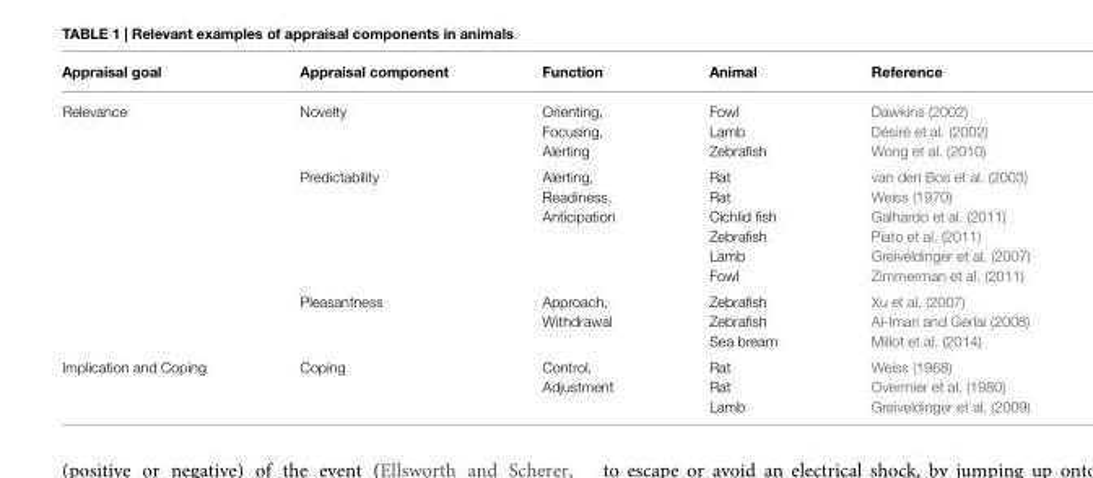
<table><thead><tr><td>Appraisal goal</td><td>Appraisal component</td><td>Function</td><td>Animal</td><td>Reference</td></tr></thead><tbody><tr><td rowspan="12">Relevance</td><td>Novelty</td><td>Orienting,</td><td>Fowl</td><td>Dawkins (2002)</td></tr><tr><td></td><td>Focusing,</td><td>Lamb</td><td>Désiré et al. (2002)</td></tr><tr><td></td><td>Alerting</td><td>Zebrafish</td><td>Wong et al. (2010)</td></tr><tr><td>Predictability</td><td>Alerting,</td><td>Rat</td><td>van den Bos et al. (2003)</td></tr><tr><td></td><td>Readiness,</td><td>Rat</td><td>Weiss (1970)</td></tr><tr><td></td><td>Anticipation</td><td>Cichlid fish</td><td>Galhardo et al. (2011)</td></tr><tr><td></td><td></td><td>Zebrafish</td><td>Piato et al. (2011)</td></tr><tr><td></td><td></td><td>Lamb</td><td>Greiveldinger et al. (2007)</td></tr><tr><td></td><td></td><td>Fowl</td><td>Zimmerman et al. (2011)</td></tr><tr><td>Pleasantness</td><td>Approach,</td><td>Zebrafish</td><td>Xu et al. (2007)</td></tr><tr><td></td><td>Withdrawal</td><td>Zebrafish</td><td>Al-Imari and Gerlai (2008)</td></tr><tr><td></td><td></td><td>Sea bream</td><td>Millot et al. (2014)</td></tr><tr><td rowspan="3">Implication and Coping</td><td>Coping</td><td>Control,</td><td>Rat</td><td>Weiss (1968)</td></tr><tr><td></td><td>Adjustment</td><td>Rat</td><td>Overmier et al. (1980)</td></tr><tr><td></td><td></td><td>Lamb</td><td>Greiveldinger et al. (2009)</td></tr></tbody></table>